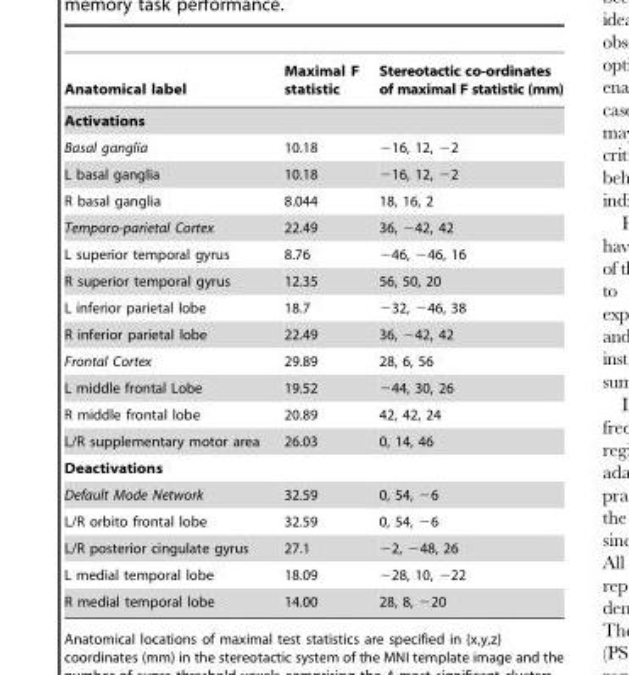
<table><thead><tr><td>Anatomical label</td><td>Maximal F statistic</td><td>Stereotactic co-ordinates of maximal F statistic (mm)</td></tr></thead><tbody><tr><td colspan="3">Activations</td></tr><tr><td>Basal ganglia</td><td>10.18</td><td>−16, 12, −2</td></tr><tr><td>L basal ganglia</td><td>10.18</td><td>−16, 12, −2</td></tr><tr><td>R basal ganglia</td><td>8.044</td><td>18, 16, 2</td></tr><tr><td>Temporo-parietal Cortex</td><td>22.49</td><td>36, −42, 42</td></tr><tr><td>L superior temporal gyrus</td><td>8.76</td><td>−46, −46, 16</td></tr><tr><td>R superior temporal gyrus</td><td>12.35</td><td>56, 50, 20</td></tr><tr><td>L inferior parietal lobe</td><td>18.7</td><td>−32, −46, 38</td></tr><tr><td>R inferior parietal lobe</td><td>22.49</td><td>36, −42, 42</td></tr><tr><td>Frontal Cortex</td><td>29.89</td><td>28, 6, 56</td></tr><tr><td>L middle frontal Lobe</td><td>19.52</td><td>−44, 30, 26</td></tr><tr><td>R middle frontal lobe</td><td>20.89</td><td>42, 42, 24</td></tr><tr><td>L/R supplementary motor area</td><td>26.03</td><td>0, 14, 46</td></tr><tr><td colspan="3">Deactivations</td></tr><tr><td>Default Mode Network</td><td>32.59</td><td>0, 54, −6</td></tr><tr><td>L/R orbito frontal lobe</td><td>32.59</td><td>0, 54, −6</td></tr><tr><td>L/R posterior cingulate gyrus</td><td>27.1</td><td>−2, −48, 26</td></tr><tr><td>L medial temporal lobe</td><td>18.09</td><td>−28, 10, −22</td></tr><tr><td>R medial temporal lobe</td><td>14.00</td><td>28, 8, −20</td></tr></tbody></table>